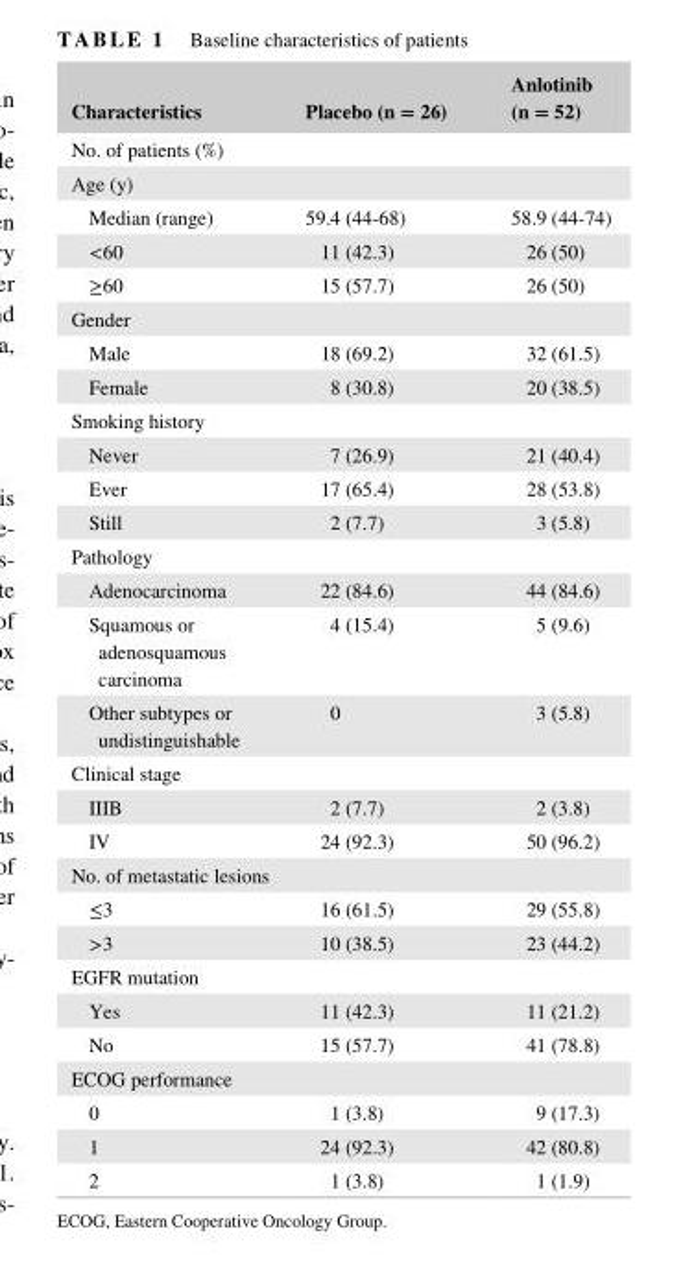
<table><thead><tr><td>Characteristics</td><td>Placebo (n = 26)</td><td>Anlotinib (n = 52)</td></tr></thead><tbody><tr><td colspan="3">No. of patients (%)</td></tr><tr><td colspan="3">Age (y)</td></tr><tr><td>Median (range)</td><td>59.4 (44- 68)</td><td>58.9 (44- 74)</td></tr><tr><td>&lt;60</td><td>11 (42.3)</td><td>26 (50)</td></tr><tr><td>≥60</td><td>15 (57.7)</td><td>26 (50)</td></tr><tr><td colspan="3">Gender</td></tr><tr><td>Male</td><td>18 (69.2)</td><td>32 (61.5)</td></tr><tr><td>Female</td><td>8 (30.8)</td><td>20 (38.5)</td></tr><tr><td colspan="3">Smoking history</td></tr><tr><td>Never</td><td>7 (26.9)</td><td>21 (40.4)</td></tr><tr><td>Ever</td><td>17 (65.4)</td><td>28 (53.8)</td></tr><tr><td>Still</td><td>2 (7.7)</td><td>3 (5.8)</td></tr><tr><td colspan="3">Pathology</td></tr><tr><td>Adenocarcinoma</td><td>22 (84.6)</td><td>44 (84.6)</td></tr><tr><td>Squamous or adenosquamous carcinoma</td><td>4 (15.4)</td><td>5 (9.6)</td></tr><tr><td>Other subtypes or undistinguishable</td><td>0</td><td>3 (5.8)</td></tr><tr><td colspan="3">Clinical stage</td></tr><tr><td>IIIB</td><td>2 (7.7)</td><td>2 (3.8)</td></tr><tr><td>IV</td><td>24 (92.3)</td><td>50 (96.2)</td></tr><tr><td colspan="3">No. of metastatic lesions</td></tr><tr><td>≤3</td><td>16 (61.5)</td><td>29 (55.8)</td></tr><tr><td>&gt;3</td><td>10 (38.5)</td><td>23 (44.2)</td></tr><tr><td colspan="3">EGFR mutation</td></tr><tr><td>Yes</td><td>11 (42.3)</td><td>11 (21.2)</td></tr><tr><td>No</td><td>15 (57.7)</td><td>41 (78.8)</td></tr><tr><td colspan="3">ECOG performance</td></tr><tr><td>0</td><td>1 (3.8)</td><td>9 (17.3)</td></tr><tr><td>1</td><td>24 (92.3)</td><td>42 (80.8)</td></tr><tr><td>2</td><td>1 (3.8)</td><td>1 (1.9)</td></tr></tbody></table>